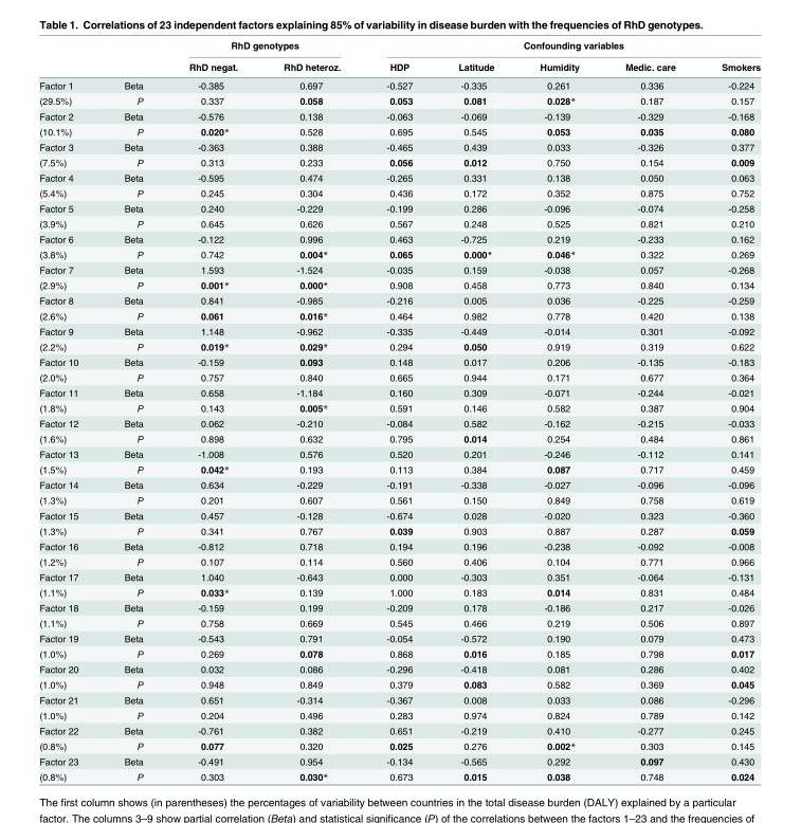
<table><thead><tr><td rowspan="2"></td><td rowspan="2"></td><td colspan="2">RhD genotypes</td><td colspan="5">Confounding variables</td></tr><tr><td>RhD negat.</td><td>RhD heteroz.</td><td>HDP</td><td>Latitude</td><td>Humidity</td><td>Medic. care</td><td>Smokers</td></tr></thead><tbody><tr><td>Factor 1</td><td>Beta</td><td>-0.385</td><td>0.697</td><td>-0.527</td><td>-0.335</td><td>0.261</td><td>0.336</td><td>-0.224</td></tr><tr><td>(29.5%)</td><td>P</td><td>0.337</td><td>0.058</td><td>0.053</td><td>0.081</td><td>0.028*</td><td>0.187</td><td>0.157</td></tr><tr><td>Factor 2</td><td>Beta</td><td>-0.576</td><td>0.138</td><td>-0.063</td><td>-0.069</td><td>-0.139</td><td>-0.329</td><td>-0.168</td></tr><tr><td>(10.1%)</td><td>P</td><td>0.020*</td><td>0.528</td><td>0.695</td><td>0.545</td><td>0.053</td><td>0.035</td><td>0.080</td></tr><tr><td>Factor 3</td><td>Beta</td><td>-0.363</td><td>0.388</td><td>-0.465</td><td>0.439</td><td>0.033</td><td>-0.326</td><td>0.377</td></tr><tr><td>(7.5%)</td><td>P</td><td>0.313</td><td>0.233</td><td>0.056</td><td>0.012</td><td>0.750</td><td>0.154</td><td>0.009</td></tr><tr><td>Factor 4</td><td>Beta</td><td>-0.595</td><td>0.474</td><td>-0.265</td><td>0.331</td><td>0.138</td><td>0.050</td><td>0.063</td></tr><tr><td>(5.4%)</td><td>P</td><td>0.245</td><td>0.304</td><td>0.436</td><td>0.172</td><td>0.352</td><td>0.875</td><td>0.752</td></tr><tr><td>Factor 5</td><td>Beta</td><td>0.240</td><td>-0.229</td><td>-0.199</td><td>0.286</td><td>-0.096</td><td>-0.074</td><td>-0.258</td></tr><tr><td>(3.9%)</td><td>P</td><td>0.645</td><td>0.626</td><td>0.567</td><td>0.248</td><td>0.525</td><td>0.821</td><td>0.210</td></tr><tr><td>Factor 6</td><td>Beta</td><td>-0.122</td><td>0.996</td><td>0.463</td><td>-0.725</td><td>0.219</td><td>-0.233</td><td>0.162</td></tr><tr><td>(3.8%)</td><td>P</td><td>0.742</td><td>0.004*</td><td>0.065</td><td>0.000*</td><td>0.046*</td><td>0.322</td><td>0.269</td></tr><tr><td>Factor 7</td><td>Beta</td><td>1.593</td><td>-1.524</td><td>-0.035</td><td>0.159</td><td>-0.038</td><td>0.057</td><td>-0.268</td></tr><tr><td>(2.9%)</td><td>P</td><td>0.001*</td><td>0.000*</td><td>0.908</td><td>0.458</td><td>0.773</td><td>0.840</td><td>0.134</td></tr><tr><td>Factor 8</td><td>Beta</td><td>0.841</td><td>-0.985</td><td>-0.216</td><td>0.005</td><td>0.036</td><td>-0.225</td><td>-0.259</td></tr><tr><td>(2.6%)</td><td>P</td><td>0.061</td><td>0.016*</td><td>0.464</td><td>0.982</td><td>0.778</td><td>0.420</td><td>0.138</td></tr><tr><td>Factor 9</td><td>Beta</td><td>1.148</td><td>-0.962</td><td>-0.335</td><td>-0.449</td><td>-0.014</td><td>0.301</td><td>-0.092</td></tr><tr><td>(2.2%)</td><td>P</td><td>0.019*</td><td>0.029*</td><td>0.294</td><td>0.050</td><td>0.919</td><td>0.319</td><td>0.622</td></tr><tr><td>Factor 10</td><td>Beta</td><td>-0.159</td><td>0.093</td><td>0.148</td><td>0.017</td><td>0.206</td><td>-0.135</td><td>-0.183</td></tr><tr><td>(2.0%)</td><td>P</td><td>0.757</td><td>0.840</td><td>0.665</td><td>0.944</td><td>0.171</td><td>0.677</td><td>0.364</td></tr><tr><td>Factor 11</td><td>Beta</td><td>0.658</td><td>-1.184</td><td>0.160</td><td>0.309</td><td>-0.071</td><td>-0.244</td><td>-0.021</td></tr><tr><td>(1.8%)</td><td>P</td><td>0.143</td><td>0.005*</td><td>0.591</td><td>0.146</td><td>0.582</td><td>0.387</td><td>0.904</td></tr><tr><td>Factor 12</td><td>Beta</td><td>0.062</td><td>-0.210</td><td>-0.084</td><td>0.582</td><td>-0.162</td><td>-0.215</td><td>-0.033</td></tr><tr><td>(1.6%)</td><td>P</td><td>0.898</td><td>0.632</td><td>0.795</td><td>0.014</td><td>0.254</td><td>0.484</td><td>0.861</td></tr><tr><td>Factor 13</td><td>Beta</td><td>-1.008</td><td>0.576</td><td>0.520</td><td>0.201</td><td>-0.246</td><td>-0.112</td><td>0.141</td></tr><tr><td>(1.5%)</td><td>P</td><td>0.042*</td><td>0.193</td><td>0.113</td><td>0.384</td><td>0.087</td><td>0.717</td><td>0.459</td></tr><tr><td>Factor 14</td><td>Beta</td><td>0.634</td><td>-0.229</td><td>-0.191</td><td>-0.338</td><td>-0.027</td><td>-0.096</td><td>-0.096</td></tr><tr><td>(1.3%)</td><td>P</td><td>0.201</td><td>0.607</td><td>0.561</td><td>0.150</td><td>0.849</td><td>0.758</td><td>0.619</td></tr><tr><td>Factor 15</td><td>Beta</td><td>0.457</td><td>-0.128</td><td>-0.674</td><td>0.028</td><td>-0.020</td><td>0.323</td><td>-0.360</td></tr><tr><td>(1.3%)</td><td>P</td><td>0.341</td><td>0.767</td><td>0.039</td><td>0.903</td><td>0.887</td><td>0.287</td><td>0.059</td></tr><tr><td>Factor 16</td><td>Beta</td><td>-0.812</td><td>0.718</td><td>0.194</td><td>0.196</td><td>-0.238</td><td>-0.092</td><td>-0.008</td></tr><tr><td>(1.2%)</td><td>P</td><td>0.107</td><td>0.114</td><td>0.560</td><td>0.406</td><td>0.104</td><td>0.771</td><td>0.966</td></tr><tr><td>Factor 17</td><td>Beta</td><td>1.040</td><td>-0.643</td><td>0.000</td><td>-0.303</td><td>0.351</td><td>-0.064</td><td>-0.131</td></tr><tr><td>(1.1%)</td><td>P</td><td>0.033*</td><td>0.139</td><td>1.000</td><td>0.183</td><td>0.014</td><td>0.831</td><td>0.484</td></tr><tr><td>Factor 18</td><td>Beta</td><td>-0.159</td><td>0.199</td><td>-0.209</td><td>0.178</td><td>-0.186</td><td>0.217</td><td>-0.026</td></tr><tr><td>(1.1%)</td><td>P</td><td>0.758</td><td>0.669</td><td>0.545</td><td>0.466</td><td>0.219</td><td>0.506</td><td>0.897</td></tr><tr><td>Factor 19</td><td>Beta</td><td>-0.543</td><td>0.791</td><td>-0.054</td><td>-0.572</td><td>0.190</td><td>0.079</td><td>0.473</td></tr><tr><td>(1.0%)</td><td>P</td><td>0.269</td><td>0.078</td><td>0.868</td><td>0.016</td><td>0.185</td><td>0.798</td><td>0.017</td></tr><tr><td>Factor 20</td><td>Beta</td><td>0.032</td><td>0.086</td><td>-0.296</td><td>-0.418</td><td>0.081</td><td>0.286</td><td>0.402</td></tr><tr><td>(1.0%)</td><td>P</td><td>0.948</td><td>0.849</td><td>0.379</td><td>0.083</td><td>0.582</td><td>0.369</td><td>0.045</td></tr><tr><td>Factor 21</td><td>Beta</td><td>0.651</td><td>-0.314</td><td>-0.367</td><td>0.008</td><td>0.033</td><td>0.086</td><td>-0.296</td></tr><tr><td>(1.0%)</td><td>P</td><td>0.204</td><td>0.496</td><td>0.283</td><td>0.974</td><td>0.824</td><td>0.789</td><td>0.142</td></tr><tr><td>Factor 22</td><td>Beta</td><td>-0.761</td><td>0.382</td><td>0.651</td><td>-0.219</td><td>0.410</td><td>-0.277</td><td>0.245</td></tr><tr><td>(0.8%)</td><td>P</td><td>0.077</td><td>0.320</td><td>0.025</td><td>0.276</td><td>0.002*</td><td>0.303</td><td>0.145</td></tr><tr><td>Factor 23</td><td>Beta</td><td>-0.491</td><td>0.954</td><td>-0.134</td><td>-0.565</td><td>0.292</td><td>0.097</td><td>0.430</td></tr><tr><td>(0.8%)</td><td>P</td><td>0.303</td><td>0.030*</td><td>0.673</td><td>0.015</td><td>0.038</td><td>0.748</td><td>0.024</td></tr></tbody></table>